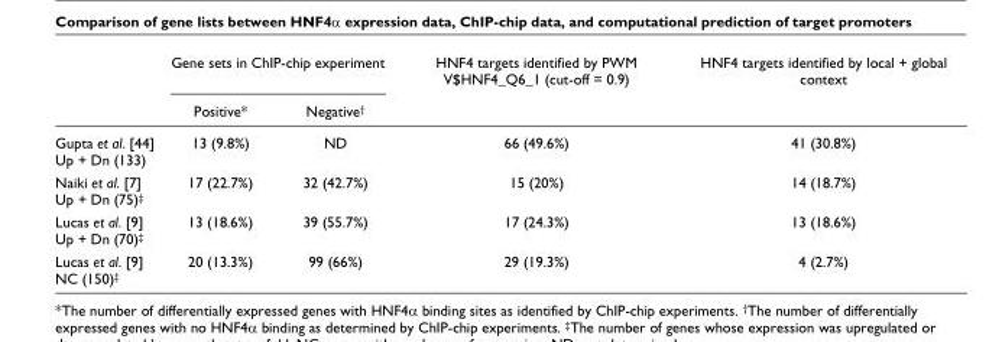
<table><thead><tr><td rowspan="2"></td><td colspan="2">Gene sets in ChIP-chip experiment</td><td rowspan="2">HNF4 targets identified by PWM V$HNF4_Q6_1 (cut-off = 0.9)</td><td rowspan="2">HNF4 targets identified by local + global context</td></tr><tr><td>Positive*</td><td>Negative<sup>†</sup></td></tr></thead><tbody><tr><td>Gupta et al. [44] Up + Dn (133)</td><td>13 (9.8%)</td><td>ND</td><td>66 (49.6%)</td><td>41 (30.8%)</td></tr><tr><td>Naiki et al. [7] Up + Dn (75)<sup>‡</sup></td><td>17 (22.7%)</td><td>32 (42.7%)</td><td>15 (20%)</td><td>14 (18.7%)</td></tr><tr><td>Lucas et al. [9] Up + Dn (70)<sup>‡</sup></td><td>13 (18.6%)</td><td>39 (55.7%)</td><td>17 (24.3%)</td><td>13 (18.6%)</td></tr><tr><td>Lucas et al. [9] NC (150)<sup>‡</sup></td><td>20 (13.3%)</td><td>99 (66%)</td><td>29 (19.3%)</td><td>4 (2.7%)</td></tr></tbody></table>